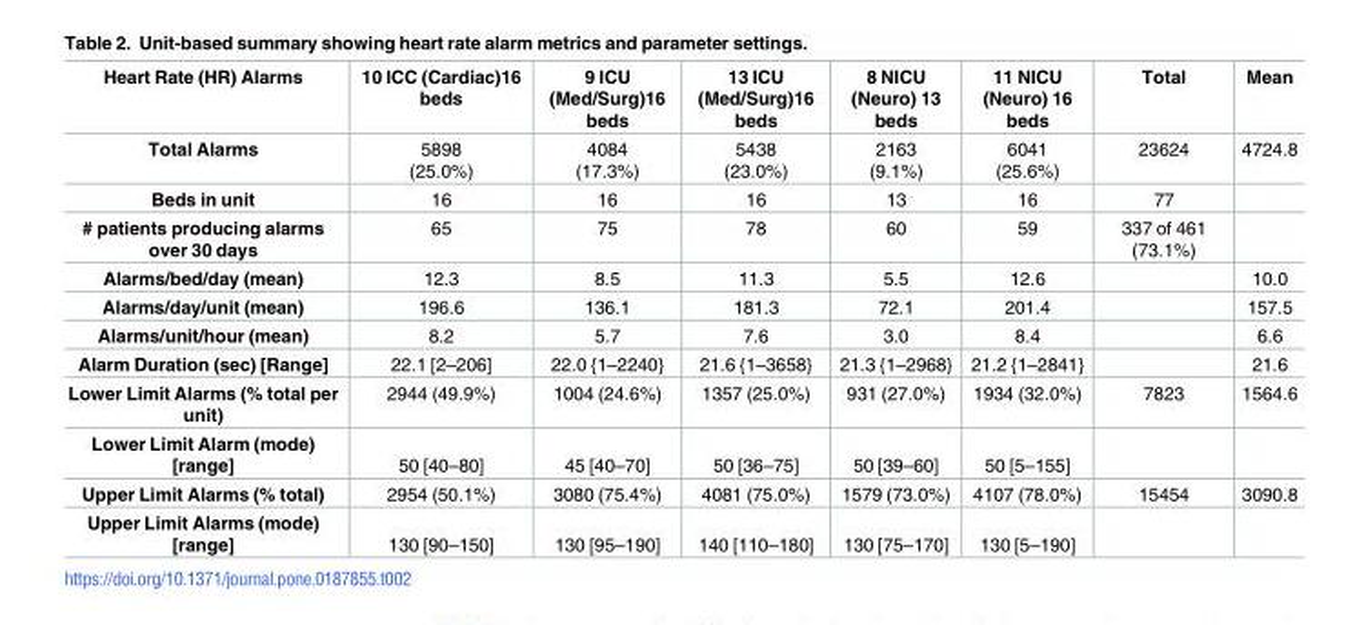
<table><thead><tr><td>Heart Rate (HR) Alarms</td><td>10 ICC (Cardiac)16 beds</td><td>9 ICU (Med/Surg)16 beds</td><td>13 ICU (Med/Surg)16 beds</td><td>8 NICU (Neuro) 13 beds</td><td>11 NICU (Neuro) 16 beds</td><td>Total</td><td>Mean</td></tr></thead><tbody><tr><td>Total Alarms</td><td>5898 (25.0%)</td><td>4084 (17.3%)</td><td>5438 (23.0%)</td><td>2163 (9.1%)</td><td>6041 (25.6%)</td><td>23624</td><td>4724.8</td></tr><tr><td>Beds in unit</td><td>16</td><td>16</td><td>16</td><td>13</td><td>16</td><td>77</td><td></td></tr><tr><td># patients producing alarms over 30 days</td><td>65</td><td>75</td><td>78</td><td>60</td><td>59</td><td>337 of 461 (73.1%)</td><td></td></tr><tr><td>Alarms/bed/day (mean)</td><td>12.3</td><td>8.5</td><td>11.3</td><td>5.5</td><td>12.6</td><td></td><td>10.0</td></tr><tr><td>Alarms/day/unit (mean)</td><td>196.6</td><td>136.1</td><td>181.3</td><td>72.1</td><td>201.4</td><td></td><td>157.5</td></tr><tr><td>Alarms/unit/hour (mean)</td><td>8.2</td><td>5.7</td><td>7.6</td><td>3.0</td><td>8.4</td><td></td><td>6.6</td></tr><tr><td>Alarm Duration (sec) [Range]</td><td>22.1 [2–206]</td><td>22.0 {1–2240}</td><td>21.6 {1–3658}</td><td>21.3 {1–2968}</td><td>21.2 {1–2841}</td><td></td><td>21.6</td></tr><tr><td>Lower Limit Alarms (% total per unit)</td><td>2944 (49.9%)</td><td>1004 (24.6%)</td><td>1357 (25.0%)</td><td>931 (27.0%)</td><td>1934 (32.0%)</td><td>7823</td><td>1564.6</td></tr><tr><td>Lower Limit Alarm (mode) [range]</td><td>50 [40–80]</td><td>45 [40–70]</td><td>50 [36–75]</td><td>50 [39–60]</td><td>50 [5–155]</td><td></td><td></td></tr><tr><td>Upper Limit Alarms (% total)</td><td>2954 (50.1%)</td><td>3080 (75.4%)</td><td>4081 (75.0%)</td><td>1579 (73.0%)</td><td>4107 (78.0%)</td><td>15454</td><td>3090.8</td></tr><tr><td>Upper Limit Alarms (mode) [range]</td><td>130 [90–150]</td><td>130 [95–190]</td><td>140 [110–180]</td><td>130 [75–170]</td><td>130 [5–190]</td><td></td><td></td></tr></tbody></table>